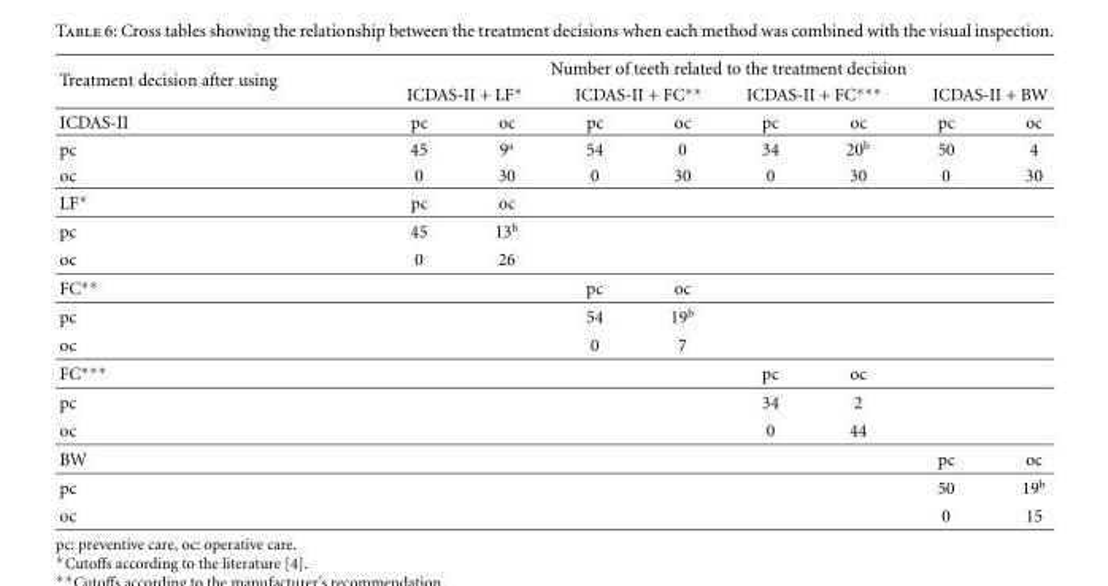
<table><thead><tr><td rowspan="3">Treatment decision after using ICDAS-II</td><td colspan="8">Number of teeth related to the treatment decision</td></tr><tr><td colspan="2">ICDAS-II + LF∗</td><td colspan="2">ICDAS-II + FC∗∗</td><td colspan="2">ICDAS-II + FC∗∗∗</td><td colspan="2">ICDAS-II + BW</td></tr><tr><td>pc</td><td>oc</td><td>pc</td><td>oc</td><td>pc</td><td>oc</td><td>pc</td><td>oc</td></tr></thead><tbody><tr><td>pc</td><td>45</td><td>9a</td><td>54</td><td>0</td><td>34</td><td>20b</td><td>50</td><td>4</td></tr><tr><td>oc</td><td>0</td><td>30</td><td>0</td><td>30</td><td>0</td><td>30</td><td>0</td><td>30</td></tr><tr><td>LF∗</td><td>pc</td><td>oc</td><td></td><td></td><td></td><td></td><td></td><td></td></tr><tr><td>pc</td><td>45</td><td>13b</td><td></td><td></td><td></td><td></td><td></td><td></td></tr><tr><td>oc</td><td>0</td><td>26</td><td></td><td></td><td></td><td></td><td></td><td></td></tr><tr><td>FC∗∗</td><td></td><td></td><td>pc</td><td>oc</td><td></td><td></td><td></td><td></td></tr><tr><td>pc</td><td></td><td></td><td>54</td><td>19b</td><td></td><td></td><td></td><td></td></tr><tr><td>oc</td><td></td><td></td><td>0</td><td>7</td><td></td><td></td><td></td><td></td></tr><tr><td>FC∗∗∗</td><td></td><td></td><td></td><td></td><td>pc</td><td>oc</td><td></td><td></td></tr><tr><td>pc</td><td></td><td></td><td></td><td></td><td>34</td><td>2</td><td></td><td></td></tr><tr><td>oc</td><td></td><td></td><td></td><td></td><td>0</td><td>44</td><td></td><td></td></tr><tr><td>BW</td><td></td><td></td><td></td><td></td><td></td><td></td><td>pc</td><td>oc</td></tr><tr><td>pc</td><td></td><td></td><td></td><td></td><td></td><td></td><td>50</td><td>19b</td></tr><tr><td>oc</td><td></td><td></td><td></td><td></td><td></td><td></td><td>0</td><td>15</td></tr></tbody></table>